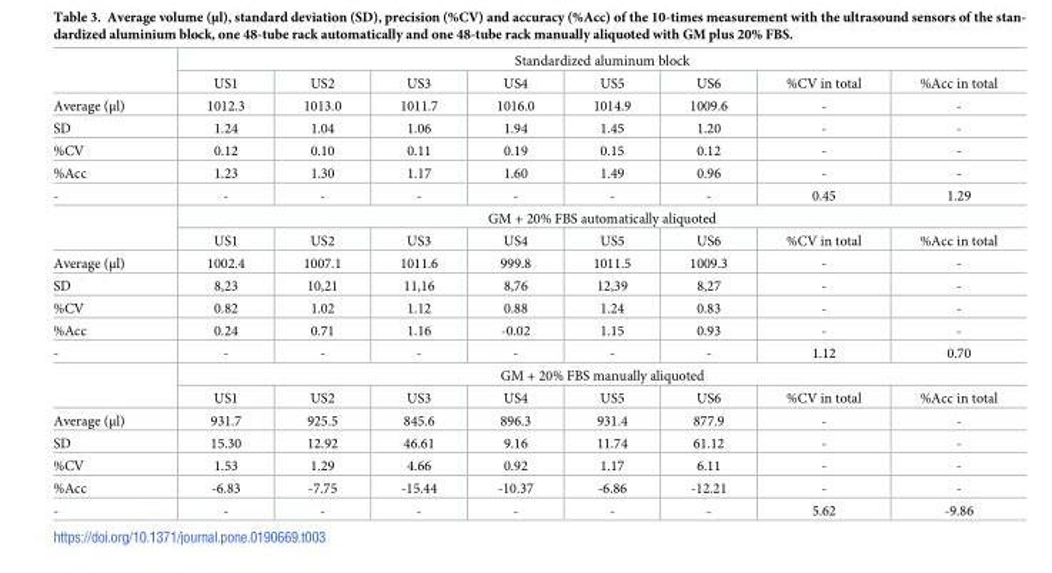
<table><thead><tr><td rowspan="2"></td><td colspan="8">Standardized aluminum block</td></tr><tr><td>US1</td><td>US2</td><td>US3</td><td>US4</td><td>US5</td><td>US6</td><td>%CV in total</td><td>%Acc in total</td></tr></thead><tbody><tr><td>Average (μl)</td><td>1012.3</td><td>1013.0</td><td>1011.7</td><td>1016.0</td><td>1014.9</td><td>1009.6</td><td>-</td><td>-</td></tr><tr><td>SD</td><td>1.24</td><td>1.04</td><td>1.06</td><td>1.94</td><td>1.45</td><td>1.20</td><td>-</td><td>-</td></tr><tr><td>%CV</td><td>0.12</td><td>0.10</td><td>0.11</td><td>0.19</td><td>0.15</td><td>0.12</td><td>-</td><td>-</td></tr><tr><td>%Acc</td><td>1.23</td><td>1.30</td><td>1.17</td><td>1.60</td><td>1.49</td><td>0.96</td><td>-</td><td>-</td></tr><tr><td rowspan="3">-</td><td>-</td><td>-</td><td>-</td><td>-</td><td>-</td><td>-</td><td>0.45</td><td>1.29</td></tr><tr><td colspan="8">GM + 20% FBS automatically aliquoted</td></tr><tr><td>US1</td><td>US2</td><td>US3</td><td>US4</td><td>US5</td><td>US6</td><td>%CV in total</td><td>%Acc in total</td></tr><tr><td>Average (μl)</td><td>1002.4</td><td>1007.1</td><td>1011.6</td><td>999.8</td><td>1011.5</td><td>1009.3</td><td>-</td><td>-</td></tr><tr><td>SD</td><td>8,23</td><td>10,21</td><td>11,16</td><td>8,76</td><td>12,39</td><td>8,27</td><td>-</td><td>-</td></tr><tr><td>%CV</td><td>0.82</td><td>1.02</td><td>1.12</td><td>0.88</td><td>1.24</td><td>0.83</td><td>-</td><td>-</td></tr><tr><td>%Acc</td><td>0.24</td><td>0.71</td><td>1.16</td><td>-0.02</td><td>1.15</td><td>0.93</td><td>-</td><td>-</td></tr><tr><td rowspan="3">-</td><td>-</td><td>-</td><td>-</td><td>-</td><td>-</td><td>-</td><td>1.12</td><td>0.70</td></tr><tr><td colspan="8">GM + 20% FBS manually aliquoted</td></tr><tr><td>US1</td><td>US2</td><td>US3</td><td>US4</td><td>US5</td><td>US6</td><td>%CV in total</td><td>%Acc in total</td></tr><tr><td>Average (μl)</td><td>931.7</td><td>925.5</td><td>845.6</td><td>896.3</td><td>931.4</td><td>877.9</td><td>-</td><td>-</td></tr><tr><td>SD</td><td>15.30</td><td>12.92</td><td>46.61</td><td>9.16</td><td>11.74</td><td>61.12</td><td>-</td><td>-</td></tr><tr><td>%CV</td><td>1.53</td><td>1.29</td><td>4.66</td><td>0.92</td><td>1.17</td><td>6.11</td><td>-</td><td>-</td></tr><tr><td>%Acc</td><td>-6.83</td><td>-7.75</td><td>-15.44</td><td>-10.37</td><td>-6.86</td><td>-12.21</td><td>-</td><td>-</td></tr><tr><td>-</td><td>-</td><td>-</td><td>-</td><td>-</td><td>-</td><td>-</td><td>5.62</td><td>-9.86</td></tr></tbody></table>